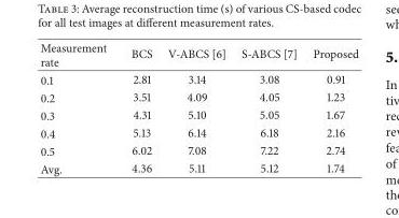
<table><thead><tr><td>Measurement rate</td><td>BCS</td><td>V-ABCS [6]</td><td>S-ABCS [7]</td><td>Proposed</td></tr></thead><tbody><tr><td>0.1</td><td>2.81</td><td>3.14</td><td>3.08</td><td>0.91</td></tr><tr><td>0.2</td><td>3.51</td><td>4.09</td><td>4.05</td><td>1.23</td></tr><tr><td>0.3</td><td>4.31</td><td>5.10</td><td>5.05</td><td>1.67</td></tr><tr><td>0.4</td><td>5.13</td><td>6.14</td><td>6.18</td><td>2.16</td></tr><tr><td>0.5</td><td>6.02</td><td>7.08</td><td>7.22</td><td>2.74</td></tr><tr><td>Avg.</td><td>4.36</td><td>5.11</td><td>5.12</td><td>1.74</td></tr></tbody></table>